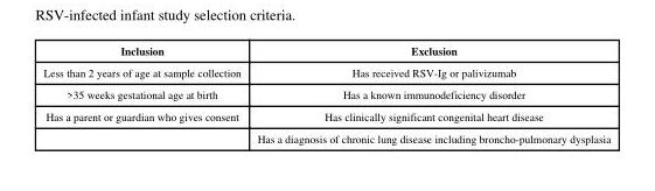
<table><thead><tr><td>Inclusion</td><td>Exclusion</td></tr></thead><tbody><tr><td>Less than 2 years of age at sample collection</td><td>Has received RSV-Ig or palivizumab</td></tr><tr><td>&gt;35 weeks gestational age at birth</td><td>Has a known immunodeficiency disorder</td></tr><tr><td rowspan="2">Has a parent or guardian who gives consent</td><td>Has clinically significant congenital heart disease</td></tr><tr><td>Has a diagnosis of chronic lung disease including broncho-pulmonary dysplasia</td></tr></tbody></table>